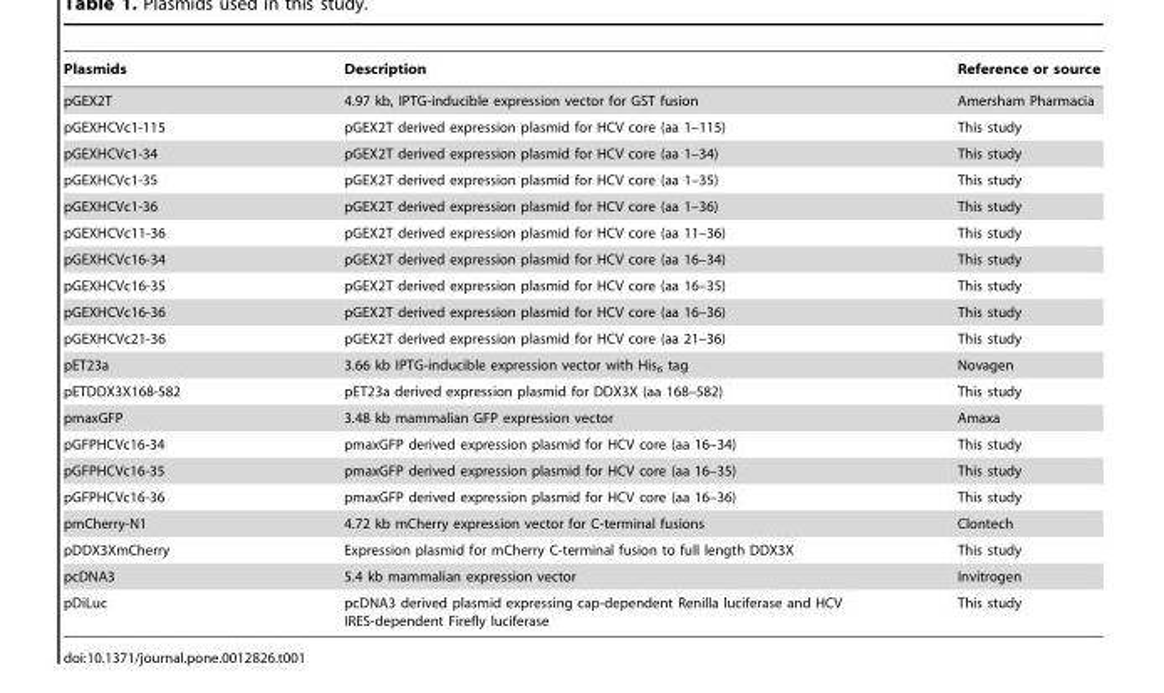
<table><thead><tr><td>Plasmids</td><td>Description</td><td>Reference or source</td></tr></thead><tbody><tr><td>pGEX2T</td><td>4.97 kb, IPTG-inducible expression vector for GST fusion</td><td>Amersham Pharmacia</td></tr><tr><td>pGEXHCVc1-115</td><td>pGEX2T derived expression plasmid for HCV core (aa 1–115)</td><td>This study</td></tr><tr><td>pGEXHCVc1-34</td><td>pGEX2T derived expression plasmid for HCV core (aa 1–34)</td><td>This study</td></tr><tr><td>pGEXHCVc1-35</td><td>pGEX2T derived expression plasmid for HCV core (aa 1–35)</td><td>This study</td></tr><tr><td>pGEXHCVc1-36</td><td>pGEX2T derived expression plasmid for HCV core (aa 1–36)</td><td>This study</td></tr><tr><td>pGEXHCVc11-36</td><td>pGEX2T derived expression plasmid for HCV core (aa 11–36)</td><td>This study</td></tr><tr><td>pGEXHCVc16-34</td><td>pGEX2T derived expression plasmid for HCV core (aa 16–34)</td><td>This study</td></tr><tr><td>pGEXHCVc16-35</td><td>pGEX2T derived expression plasmid for HCV core (aa 16–35)</td><td>This study</td></tr><tr><td>pGEXHCVc16-36</td><td>pGEX2T derived expression plasmid for HCV core (aa 16–36)</td><td>This study</td></tr><tr><td>pGEXHCVc21-36</td><td>pGEX2T derived expression plasmid for HCV core (aa 21–36)</td><td>This study</td></tr><tr><td>pET23a</td><td>3.66 kb IPTG-inducible expression vector with His<sub>6</sub> tag</td><td>Novagen</td></tr><tr><td>pETDDX3X168-582</td><td>pET23a derived expression plasmid for DDX3X (aa 168–582)</td><td>This study</td></tr><tr><td>pmaxGFP</td><td>3.48 kb mammalian GFP expression vector</td><td>Amaxa</td></tr><tr><td>pGFPHCVc16-34</td><td>pmaxGFP derived expression plasmid for HCV core (aa 16–34)</td><td>This study</td></tr><tr><td>pGFPHCVc16-35</td><td>pmaxGFP derived expression plasmid for HCV core (aa 16–35)</td><td>This study</td></tr><tr><td>pGFPHCVc16-36</td><td>pmaxGFP derived expression plasmid for HCV core (aa 16–36)</td><td>This study</td></tr><tr><td>pmCherry-N1</td><td>4.72 kb mCherry expression vector for C-terminal fusions</td><td>Clontech</td></tr><tr><td>pDDX3XmCherry</td><td>Expression plasmid for mCherry C-terminal fusion to full length DDX3X</td><td>This study</td></tr><tr><td>pcDNA3</td><td>5.4 kb mammalian expression vector</td><td>Invitrogen</td></tr><tr><td>pDiLuc</td><td>pcDNA3 derived plasmid expressing cap-dependent Renilla luciferase and HCV IRES-dependent Firefly luciferase</td><td>This study</td></tr></tbody></table>